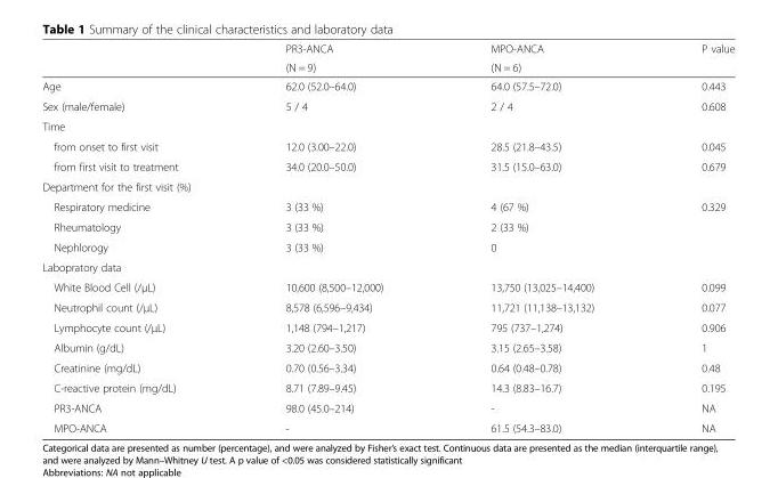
<table><thead><tr><td rowspan="2"></td><td rowspan="2">PR3-ANCA (N = 9)</td><td rowspan="2">MPO-ANCA (N = 6)</td><td rowspan="2">P value</td></tr><tr></tr></thead><tbody><tr><td>Age</td><td>62.0 (52.0–64.0)</td><td>64.0 (57.5–72.0)</td><td>0.443</td></tr><tr><td>Sex (male/female)</td><td>5 / 4</td><td>2 / 4</td><td>0.608</td></tr><tr><td colspan="4">Time</td></tr><tr><td>from onset to first visit</td><td>12.0 (3.00–22.0)</td><td>28.5 (21.8–43.5)</td><td>0.045</td></tr><tr><td>from first visit to treatment</td><td>34.0 (20.0–50.0)</td><td>31.5 (15.0–63.0)</td><td>0.679</td></tr><tr><td colspan="4">Department for the first visit (%)</td></tr><tr><td>Respiratory medicine</td><td>3 (33 %)</td><td>4 (67 %)</td><td>0.329</td></tr><tr><td>Rheumatology</td><td>3 (33 %)</td><td>2 (33 %)</td><td></td></tr><tr><td>Nephlorogy</td><td>3 (33 %)</td><td>0</td><td></td></tr><tr><td colspan="4">Labopratory data</td></tr><tr><td>White Blood Cell (/μL)</td><td>10,600 (8,500–12,000)</td><td>13,750 (13,025–14,400)</td><td>0.099</td></tr><tr><td>Neutrophil count (/μL)</td><td>8,578 (6,596–9,434)</td><td>11,721 (11,138–13,132)</td><td>0.077</td></tr><tr><td>Lymphocyte count (/μL)</td><td>1,148 (794–1,217)</td><td>795 (737–1,274)</td><td>0.906</td></tr><tr><td>Albumin (g/dL)</td><td>3.20 (2.60–3.50)</td><td>3.15 (2.65–3.58)</td><td>1</td></tr><tr><td>Creatinine (mg/dL)</td><td>0.70 (0.56–3.34)</td><td>0.64 (0.48–0.78)</td><td>0.48</td></tr><tr><td>C-reactive protein (mg/dL)</td><td>8.71 (7.89–9.45)</td><td>14.3 (8.83–16.7)</td><td>0.195</td></tr><tr><td>PR3-ANCA</td><td>98.0 (45.0–214)</td><td>-</td><td>NA</td></tr><tr><td>MPO-ANCA</td><td>-</td><td>61.5 (54.3–83.0)</td><td>NA</td></tr></tbody></table>